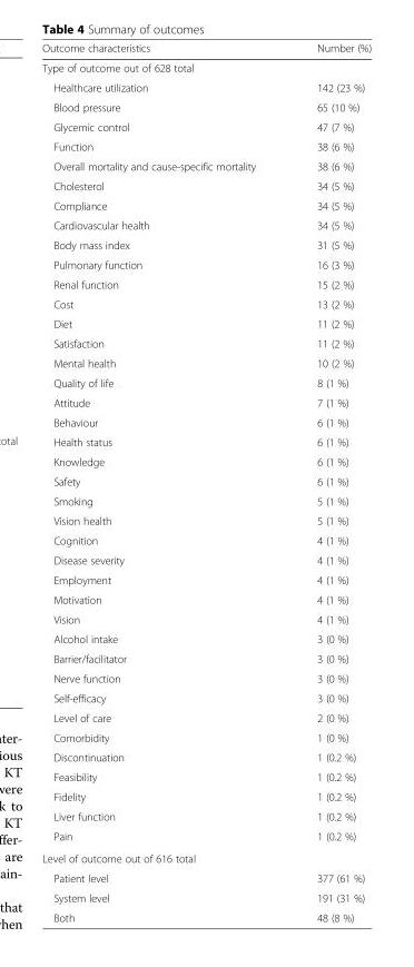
<table><thead><tr><td>Outcome characteristics</td><td>Number (%)</td></tr></thead><tbody><tr><td colspan="2">Type of outcome out of 628 total</td></tr><tr><td>Healthcare utilization</td><td>142 (23 %)</td></tr><tr><td>Blood pressure</td><td>65 (10 %)</td></tr><tr><td>Glycemic control</td><td>47 (7 %)</td></tr><tr><td>Function</td><td>38 (6 %)</td></tr><tr><td>Overall mortality and cause-specific mortality</td><td>38 (6 %)</td></tr><tr><td>Cholesterol</td><td>34 (5 %)</td></tr><tr><td>Compliance</td><td>34 (5 %)</td></tr><tr><td>Cardiovascular health</td><td>34 (5 %)</td></tr><tr><td>Body mass index</td><td>31 (5 %)</td></tr><tr><td>Pulmonary function</td><td>16 (3 %)</td></tr><tr><td>Renal function</td><td>15 (2 %)</td></tr><tr><td>Cost</td><td>13 (2 %)</td></tr><tr><td>Diet</td><td>11 (2 %)</td></tr><tr><td>Satisfaction</td><td>11 (2 %)</td></tr><tr><td>Mental health</td><td>10 (2 %)</td></tr><tr><td>Quality of life</td><td>8 (1 %)</td></tr><tr><td>Attitude</td><td>7 (1 %)</td></tr><tr><td>Behaviour</td><td>6 (1 %)</td></tr><tr><td>Health status</td><td>6 (1 %)</td></tr><tr><td>Knowledge</td><td>6 (1 %)</td></tr><tr><td>Safety</td><td>6 (1 %)</td></tr><tr><td>Smoking</td><td>5 (1 %)</td></tr><tr><td>Vision health</td><td>5 (1 %)</td></tr><tr><td>Cognition</td><td>4 (1 %)</td></tr><tr><td>Disease severity</td><td>4 (1 %)</td></tr><tr><td>Employment</td><td>4 (1 %)</td></tr><tr><td>Motivation</td><td>4 (1 %)</td></tr><tr><td>Vision</td><td>4 (1 %)</td></tr><tr><td>Alcohol intake</td><td>3 (0 %)</td></tr><tr><td>Barrier/facilitator</td><td>3 (0 %)</td></tr><tr><td>Nerve function</td><td>3 (0 %)</td></tr><tr><td>Self-efficacy</td><td>3 (0 %)</td></tr><tr><td>Level of care</td><td>2 (0 %)</td></tr><tr><td>Comorbidity</td><td>1 (0 %)</td></tr><tr><td>Discontinuation</td><td>1 (0.2 %)</td></tr><tr><td>Feasibility</td><td>1 (0.2 %)</td></tr><tr><td>Fidelity</td><td>1 (0.2 %)</td></tr><tr><td>Liver function</td><td>1 (0.2 %)</td></tr><tr><td>Pain</td><td>1 (0.2 %)</td></tr><tr><td colspan="2">Level of outcome out of 616 total</td></tr><tr><td>Patient level</td><td>377 (61 %)</td></tr><tr><td>System level</td><td>191 (31 %)</td></tr><tr><td>Both</td><td>48 (8 %)</td></tr></tbody></table>